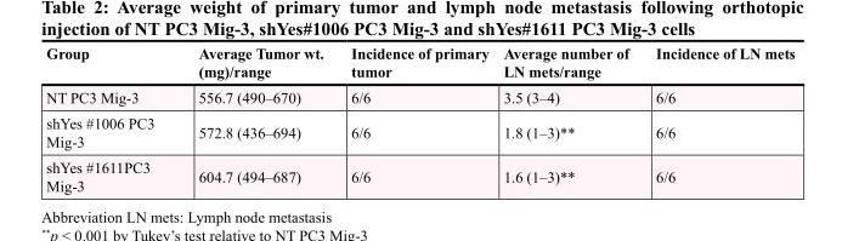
<table><thead><tr><td>Group</td><td>Average Tumor wt. (mg)/range</td><td>Incidence of primary tumor</td><td>Average number of LN mets/range</td><td>Incidence of LN mets</td></tr></thead><tbody><tr><td>NT PC3 Mig-3</td><td>556.7 (490–670)</td><td>6/6</td><td>3.5 (3–4)</td><td>6/6</td></tr><tr><td>shYes #1006 PC3 Mig-3</td><td>572.8 (436–694)</td><td>6/6</td><td>1.8 (1–3)**</td><td>6/6</td></tr><tr><td>shYes #1611PC3 Mig-3</td><td>604.7 (494–687)</td><td>6/6</td><td>1.6 (1–3)**</td><td>6/6</td></tr></tbody></table>